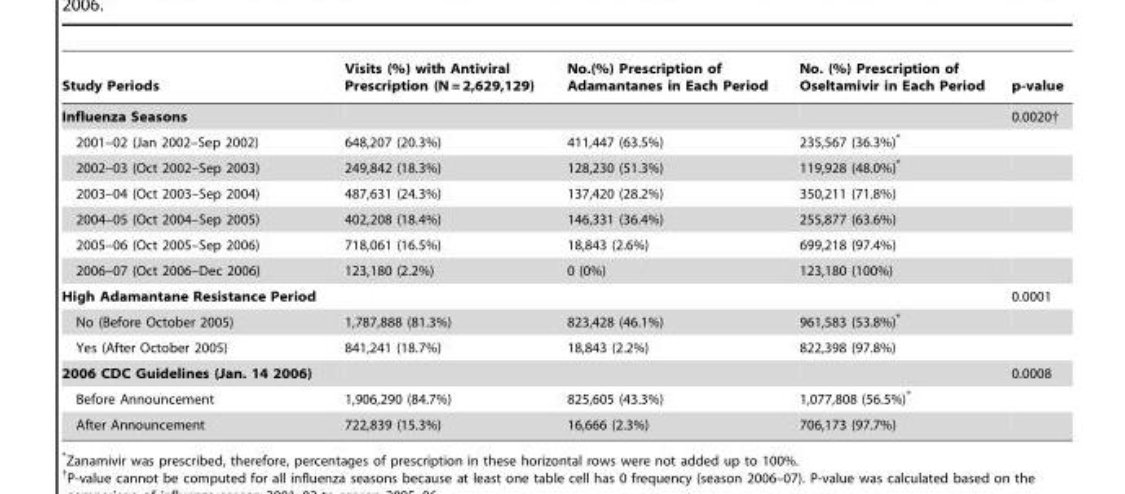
<table><thead><tr><td>Study Periods</td><td>Visits (%) with Antiviral Prescription (N = 2,629,129)</td><td>No.(%) Prescription of Adamantanes in Each Period</td><td>No. (%) Prescription of Oseltamivir in Each Period</td><td>p-value</td></tr></thead><tbody><tr><td>Influenza Seasons</td><td></td><td></td><td></td><td>0.0020†</td></tr><tr><td>2001–02 (Jan 2002–Sep 2002)</td><td>648,207 (20.3%)</td><td>411,447 (63.5%)</td><td>235,567 (36.3%)*</td><td></td></tr><tr><td>2002–03 (Oct 2002–Sep 2003)</td><td>249,842 (18.3%)</td><td>128,230 (51.3%)</td><td>119,928 (48.0%)*</td><td></td></tr><tr><td>2003–04 (Oct 2003–Sep 2004)</td><td>487,631 (24.3%)</td><td>137,420 (28.2%)</td><td>350,211 (71.8%)</td><td></td></tr><tr><td>2004–05 (Oct 2004–Sep 2005)</td><td>402,208 (18.4%)</td><td>146,331 (36.4%)</td><td>255,877 (63.6%)</td><td></td></tr><tr><td>2005–06 (Oct 2005–Sep 2006)</td><td>718,061 (16.5%)</td><td>18,843 (2.6%)</td><td>699,218 (97.4%)</td><td></td></tr><tr><td>2006–07 (Oct 2006–Dec 2006)</td><td>123,180 (2.2%)</td><td>0 (0%)</td><td>123,180 (100%)</td><td></td></tr><tr><td>High Adamantane Resistance Period</td><td></td><td></td><td></td><td>0.0001</td></tr><tr><td>No (Before October 2005)</td><td>1,787,888 (81.3%)</td><td>823,428 (46.1%)</td><td>961,583 (53.8%)*</td><td></td></tr><tr><td>Yes (After October 2005)</td><td>841,241 (18.7%)</td><td>18,843 (2.2%)</td><td>822,398 (97.8%)</td><td></td></tr><tr><td>2006 CDC Guidelines (Jan. 14 2006)</td><td></td><td></td><td></td><td>0.0008</td></tr><tr><td>Before Announcement</td><td>1,906,290 (84.7%)</td><td>825,605 (43.3%)</td><td>1,077,808 (56.5%)*</td><td></td></tr><tr><td>After Announcement</td><td>722,839 (15.3%)</td><td>16,666 (2.3%)</td><td>706,173 (97.7%)</td><td></td></tr></tbody></table>